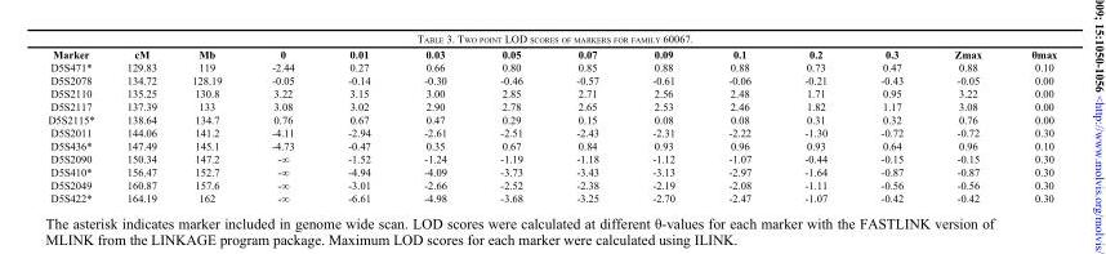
<table><thead><tr><td>Marker</td><td>cM</td><td>Mb</td><td>0</td><td>0.01</td><td>0.03</td><td>0.05</td><td>0.07</td><td>0.09</td><td>0.1</td><td>0.2</td><td>0.3</td><td>Zmax</td><td>θmax</td></tr></thead><tbody><tr><td>D5S471*</td><td>129.83</td><td>119</td><td>-2.44</td><td>0.27</td><td>0.66</td><td>0.80</td><td>0.85</td><td>0.88</td><td>0.88</td><td>0.73</td><td>0.47</td><td>0.88</td><td>0.10</td></tr><tr><td>D5S2078</td><td>134.72</td><td>128.19</td><td>-0.05</td><td>-0.14</td><td>-0.30</td><td>-0.46</td><td>-0.57</td><td>-0.61</td><td>-0.06</td><td>-0.21</td><td>-0.43</td><td>-0.05</td><td>0.00</td></tr><tr><td>D5S2110</td><td>135.25</td><td>130.8</td><td>3.22</td><td>3.15</td><td>3.00</td><td>2.85</td><td>2.71</td><td>2.56</td><td>2.48</td><td>1.71</td><td>0.95</td><td>3.22</td><td>0.00</td></tr><tr><td>D5S2117</td><td>137.39</td><td>133</td><td>3.08</td><td>3.02</td><td>2.90</td><td>2.78</td><td>2.65</td><td>2.53</td><td>2.46</td><td>1.82</td><td>1.17</td><td>3.08</td><td>0.00</td></tr><tr><td>D5S2115*</td><td>138.64</td><td>134.7</td><td>0.76</td><td>0.67</td><td>0.47</td><td>0.29</td><td>0.15</td><td>0.08</td><td>0.08</td><td>0.31</td><td>0.32</td><td>0.76</td><td>0.00</td></tr><tr><td>D5S2011</td><td>144.06</td><td>141.2</td><td>-4.11</td><td>-2.94</td><td>-2.61</td><td>-2.51</td><td>-2.43</td><td>-2.31</td><td>-2.22</td><td>-1.30</td><td>-0.72</td><td>-0.72</td><td>0.30</td></tr><tr><td>D5S436*</td><td>147.49</td><td>145.1</td><td>-4.73</td><td>-0.47</td><td>0.35</td><td>0.67</td><td>0.84</td><td>0.93</td><td>0.96</td><td>0.93</td><td>0.64</td><td>0.96</td><td>0.10</td></tr><tr><td>D5S2090</td><td>150.34</td><td>147.2</td><td>-∞</td><td>-1.52</td><td>-1.24</td><td>-1.19</td><td>-1.18</td><td>-1.12</td><td>-1.07</td><td>-0.44</td><td>-0.15</td><td>-0.15</td><td>0.30</td></tr><tr><td>D5S410*</td><td>156.47</td><td>152.7</td><td>-∞</td><td>-4.94</td><td>-4.09</td><td>-3.73</td><td>-3.43</td><td>-3.13</td><td>-2.97</td><td>-1.64</td><td>-0.87</td><td>-0.87</td><td>0.30</td></tr><tr><td>D5S2049</td><td>160.87</td><td>157.6</td><td>-∞</td><td>-3.01</td><td>-2.66</td><td>-2.52</td><td>-2.38</td><td>-2.19</td><td>-2.08</td><td>-1.11</td><td>-0.56</td><td>-0.56</td><td>0.30</td></tr><tr><td>D5S422*</td><td>164.19</td><td>162</td><td>-∞</td><td>-6.61</td><td>-4.98</td><td>-3.68</td><td>-3.25</td><td>-2.70</td><td>-2.47</td><td>-1.07</td><td>-0.42</td><td>-0.42</td><td>0.30</td></tr></tbody></table>